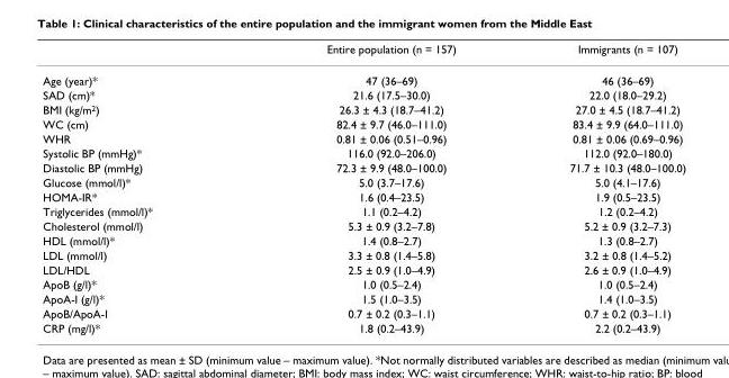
<table><thead><tr><td></td><td>Entire population (n = 157)</td><td>Immigrants (n = 107)</td></tr></thead><tbody><tr><td>Age (year)*</td><td>47 (36–69)</td><td>46 (36–69)</td></tr><tr><td>SAD (cm)*</td><td>21.6 (17.5–30.0)</td><td>22.0 (18.0–29.2)</td></tr><tr><td>BMI (kg/m<sup>2</sup>)</td><td>26.3 ± 4.3 (18.7–41.2)</td><td>27.0 ± 4.5 (18.7–41.2)</td></tr><tr><td>WC (cm)</td><td>82.4 ± 9.7 (46.0–111.0)</td><td>83.4 ± 9.9 (64.0–111.0)</td></tr><tr><td>WHR</td><td>0.81 ± 0.06 (0.51–0.96)</td><td>0.81 ± 0.06 (0.69–0.96)</td></tr><tr><td>Systolic BP (mmHg)*</td><td>116.0 (92.0–206.0)</td><td>112.0 (92.0–180.0)</td></tr><tr><td>Diastolic BP (mmHg)</td><td>72.3 ± 9.9 (48.0–100.0)</td><td>71.7 ± 10.3 (48.0–100.0)</td></tr><tr><td>Glucose (mmol/l)*</td><td>5.0 (3.7–17.6)</td><td>5.0 (4.1–17.6)</td></tr><tr><td>HOMA-IR*</td><td>1.6 (0.4–23.5)</td><td>1.9 (0.5–23.5)</td></tr><tr><td>Triglycerides (mmol/l)*</td><td>1.1 (0.2–4.2)</td><td>1.2 (0.2–4.2)</td></tr><tr><td>Cholesterol (mmol/l)</td><td>5.3 ± 0.9 (3.2–7.8)</td><td>5.2 ± 0.9 (3.2–7.3)</td></tr><tr><td>HDL (mmol/l)*</td><td>1.4 (0.8–2.7)</td><td>1.3 (0.8–2.7)</td></tr><tr><td>LDL (mmol/l)</td><td>3.3 ± 0.8 (1.4–5.8)</td><td>3.2 ± 0.8 (1.4–5.2)</td></tr><tr><td>LDL/HDL</td><td>2.5 ± 0.9 (1.0–4.9)</td><td>2.6 ± 0.9 (1.0–4.9)</td></tr><tr><td>ApoB (g/l)*</td><td>1.0 (0.5–2.4)</td><td>1.0 (0.5–2.4)</td></tr><tr><td>ApoA-I (g/l)*</td><td>1.5 (1.0–3.5)</td><td>1.4 (1.0–3.5)</td></tr><tr><td>ApoB/ApoA-I</td><td>0.7 ± 0.2 (0.3–1.1)</td><td>0.7 ± 0.2 (0.3–1.1)</td></tr><tr><td>CRP (mg/l)*</td><td>1.8 (0.2–43.9)</td><td>2.2 (0.2–43.9)</td></tr></tbody></table>